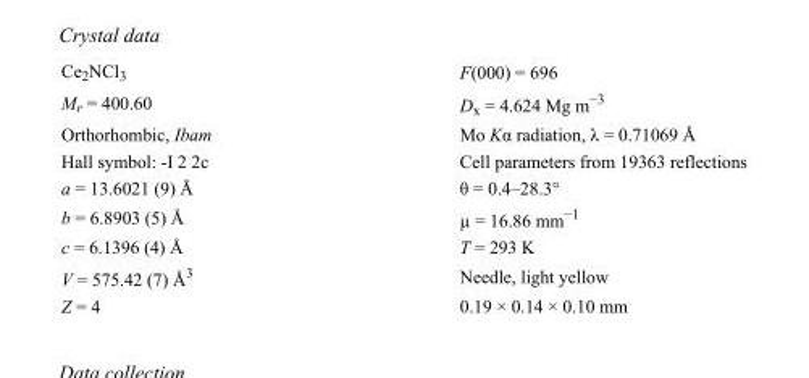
<table><tbody><tr><td>Ce<sub>2</sub>NCl<sub>3</sub></td><td>F(000) = 696</td></tr><tr><td>M<sub>r</sub> = 400.60</td><td>D<sub>x</sub> = 4.624 Mg m<sup>−3</sup></td></tr><tr><td>Orthorhombic, Ibam</td><td>Mo Kα radiation, λ = 0.71069 Å</td></tr><tr><td>Hall symbol: -I 2 2c</td><td>Cell parameters from 19363 reflections</td></tr><tr><td>a = 13.6021 (9) Å</td><td>θ = 0.4–28.3°</td></tr><tr><td>b = 6.8903 (5) Å</td><td>µ = 16.86 mm<sup>−1</sup></td></tr><tr><td>c = 6.1396 (4) Å</td><td>T = 293 K</td></tr><tr><td>V = 575.42 (7) Å<sup>3</sup></td><td>Needle, light yellow</td></tr><tr><td>Z = 4</td><td>0.19 × 0.14 × 0.10 mm</td></tr></tbody></table>